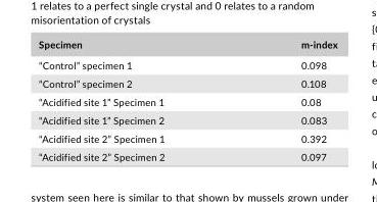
<table><thead><tr><td>Specimen</td><td>m- index</td></tr></thead><tbody><tr><td>“Control” specimen 1</td><td>0.098</td></tr><tr><td>“Control” specimen 2</td><td>0.108</td></tr><tr><td>“Acidified site 1” Specimen 1</td><td>0.08</td></tr><tr><td>“Acidified site 1” Specimen 2</td><td>0.083</td></tr><tr><td>“Acidified site 2” Specimen 1</td><td>0.392</td></tr><tr><td>“Acidified site 2” Specimen 2</td><td>0.097</td></tr></tbody></table>